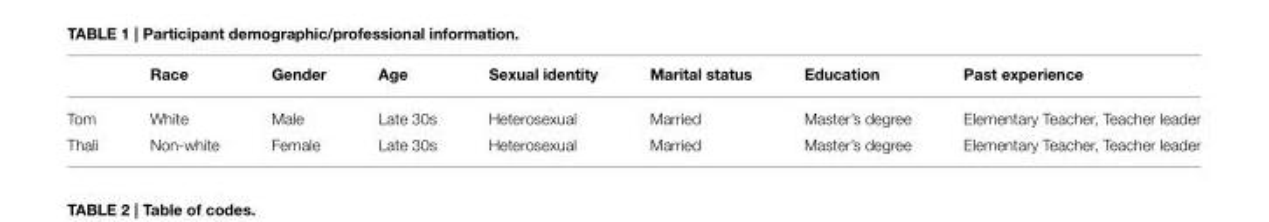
<table><thead><tr><td></td><td>Race</td><td>Gender</td><td>Age</td><td>Sexual identity</td><td>Marital status</td><td>Education</td><td>Past experience</td></tr></thead><tbody><tr><td>Tom</td><td>White</td><td>Male</td><td>Late 30s</td><td>Heterosexual</td><td>Married</td><td>Master’s degree</td><td>Elementary Teacher, Teacher leader</td></tr><tr><td>Thali</td><td>Non-white</td><td>Female</td><td>Late 30s</td><td>Heterosexual</td><td>Married</td><td>Master’s degree</td><td>Elementary Teacher, Teacher leader</td></tr></tbody></table>